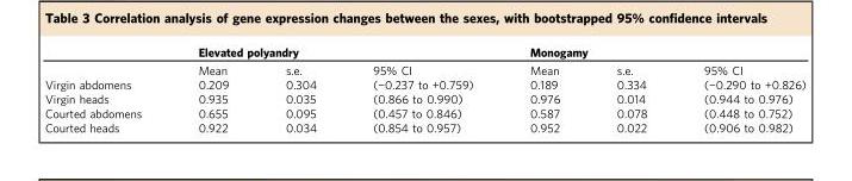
<table><thead><tr><td rowspan="2"></td><td colspan="3">Elevated polyandry</td><td colspan="3">Monogamy</td></tr><tr><td>Mean</td><td>s.e.</td><td>95% CI</td><td>Mean</td><td>s.e.</td><td>95% CI</td></tr></thead><tbody><tr><td>Virgin abdomens</td><td>0.209</td><td>0.304</td><td>(−0.237 to +0.759)</td><td>0.189</td><td>0.334</td><td>(−0.290 to +0.826)</td></tr><tr><td>Virgin heads</td><td>0.935</td><td>0.035</td><td>(0.866 to 0.990)</td><td>0.976</td><td>0.014</td><td>(0.944 to 0.976)</td></tr><tr><td>Courted abdomens</td><td>0.655</td><td>0.095</td><td>(0.457 to 0.846)</td><td>0.587</td><td>0.078</td><td>(0.448 to 0.752)</td></tr><tr><td>Courted heads</td><td>0.922</td><td>0.034</td><td>(0.854 to 0.957)</td><td>0.952</td><td>0.022</td><td>(0.906 to 0.982)</td></tr></tbody></table>